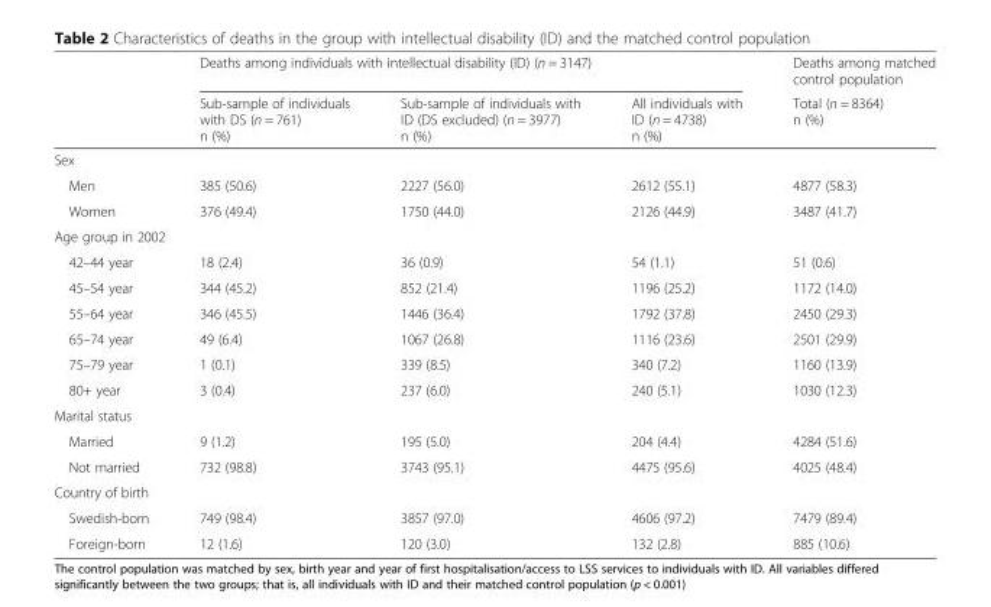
<table><thead><tr><td rowspan="2"></td><td colspan="3">Deaths among individuals with intellectual disability (ID) (n = 3147)</td><td rowspan="2">Deaths among matched control population Total (n = 8364) n (%)</td></tr><tr><td>Sub-sample of individuals with DS (n = 761) n (%)</td><td>Sub-sample of individuals with ID (DS excluded) (n = 3977) n (%)</td><td>All individuals with ID (n = 4738) n (%)</td></tr></thead><tbody><tr><td colspan="5">Sex</td></tr><tr><td>Men</td><td>385 (50.6)</td><td>2227 (56.0)</td><td>2612 (55.1)</td><td>4877 (58.3)</td></tr><tr><td>Women</td><td>376 (49.4)</td><td>1750 (44.0)</td><td>2126 (44.9)</td><td>3487 (41.7)</td></tr><tr><td colspan="5">Age group in 2002</td></tr><tr><td>42–44 year</td><td>18 (2.4)</td><td>36 (0.9)</td><td>54 (1.1)</td><td>51 (0.6)</td></tr><tr><td>45–54 year</td><td>344 (45.2)</td><td>852 (21.4)</td><td>1196 (25.2)</td><td>1172 (14.0)</td></tr><tr><td>55–64 year</td><td>346 (45.5)</td><td>1446 (36.4)</td><td>1792 (37.8)</td><td>2450 (29.3)</td></tr><tr><td>65–74 year</td><td>49 (6.4)</td><td>1067 (26.8)</td><td>1116 (23.6)</td><td>2501 (29.9)</td></tr><tr><td>75–79 year</td><td>1 (0.1)</td><td>339 (8.5)</td><td>340 (7.2)</td><td>1160 (13.9)</td></tr><tr><td>80+ year</td><td>3 (0.4)</td><td>237 (6.0)</td><td>240 (5.1)</td><td>1030 (12.3)</td></tr><tr><td colspan="5">Marital status</td></tr><tr><td>Married</td><td>9 (1.2)</td><td>195 (5.0)</td><td>204 (4.4)</td><td>4284 (51.6)</td></tr><tr><td>Not married</td><td>732 (98.8)</td><td>3743 (95.1)</td><td>4475 (95.6)</td><td>4025 (48.4)</td></tr><tr><td colspan="5">Country of birth</td></tr><tr><td>Swedish-born</td><td>749 (98.4)</td><td>3857 (97.0)</td><td>4606 (97.2)</td><td>7479 (89.4)</td></tr><tr><td>Foreign-born</td><td>12 (1.6)</td><td>120 (3.0)</td><td>132 (2.8)</td><td>885 (10.6)</td></tr></tbody></table>